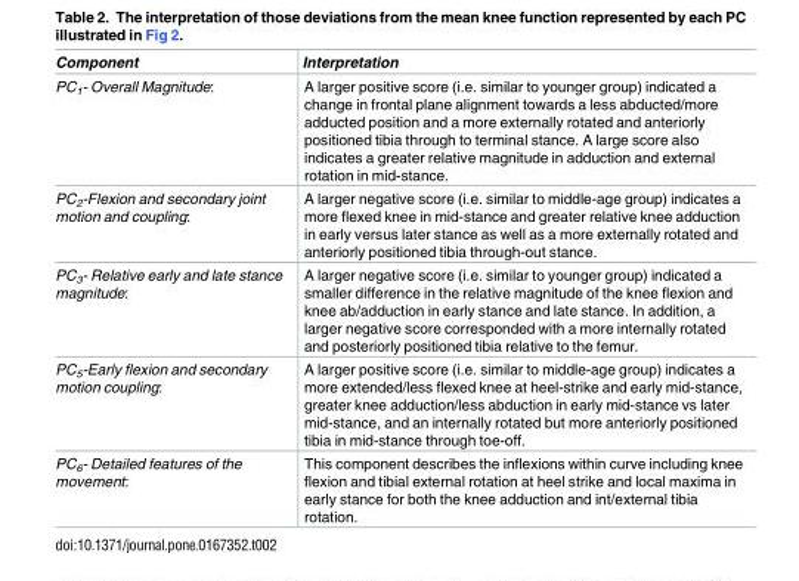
<table><thead><tr><td>Component</td><td>Interpretation</td></tr></thead><tbody><tr><td>PC<sub>1</sub>- Overall Magnitude:</td><td>A larger positive score (i.e. similar to younger group) indicated a change in frontal plane alignment towards a less abducted/more adducted position and a more externally rotated and anteriorly positioned tibia through to terminal stance. A large score also indicates a greater relative magnitude in adduction and external rotation in mid-stance.</td></tr><tr><td>PC<sub>2</sub>-Flexion and secondary joint motion and coupling:</td><td>A larger negative score (i.e. similar to middle-age group) indicates a more flexed knee in mid-stance and greater relative knee adduction in early versus later stance as well as a more externally rotated and anteriorly positioned tibia through-out stance.</td></tr><tr><td>PC<sub>3</sub>- Relative early and late stance magnitude:</td><td>A larger negative score (i.e. similar to younger group) indicated a smaller difference in the relative magnitude of the knee flexion and knee ab/adduction in early stance and late stance. In addition, a larger negative score corresponded with a more internally rotated and posteriorly positioned tibia relative to the femur.</td></tr><tr><td>PC<sub>5</sub>-Early flexion and secondary motion coupling:</td><td>A larger positive score (i.e. similar to middle-age group) indicates a more extended/less flexed knee at heel-strike and early mid-stance, greater knee adduction/less abduction in early mid-stance vs later mid-stance, and an internally rotated but more anteriorly positioned tibia in mid-stance through toe-off.</td></tr><tr><td>PC<sub>6</sub>- Detailed features of the movement:</td><td>This component describes the inflexions within curve including knee flexion and tibial external rotation at heel strike and local maxima in early stance for both the knee adduction and int/external tibia rotation.</td></tr></tbody></table>